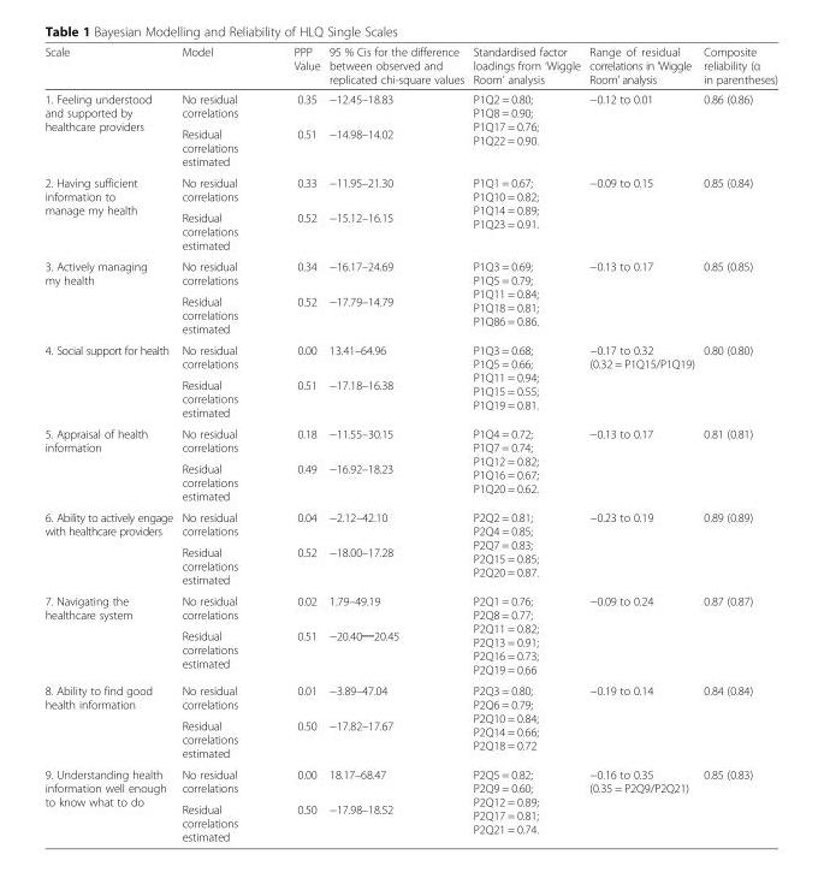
<table><thead><tr><td>Scale</td><td>Model</td><td>PPP Value</td><td>95 % Cis for the difference between observed and replicated chi-square values</td><td>Standardised factor loadings from ‘Wiggle Room’ analysis</td><td>Range of residual correlations in ‘Wiggle Room’ analysis</td><td>Composite reliability (α in parentheses)</td></tr></thead><tbody><tr><td rowspan="2">1. Feeling understood and supported by healthcare providers</td><td>No residual correlations</td><td>0.35</td><td>−12.45–18.83</td><td rowspan="2">P1Q2 = 0.80; P1Q8 = 0.90; P1Q17 = 0.76; P1Q22 = 0.90.</td><td rowspan="2">−0.12 to 0.01</td><td rowspan="2">0.86 (0.86)</td></tr><tr><td>Residual correlations estimated</td><td>0.51</td><td>−14.98–14.02</td></tr><tr><td rowspan="2">2. Having sufficient information to manage my health</td><td>No residual correlations</td><td>0.33</td><td>−11.95–21.30</td><td rowspan="2">P1Q1 = 0.67; P1Q10 = 0.82; P1Q14 = 0.89; P1Q23 = 0.91.</td><td rowspan="2">−0.09 to 0.15</td><td rowspan="2">0.85 (0.84)</td></tr><tr><td>Residual correlations estimated</td><td>0.52</td><td>−15.12–16.15</td></tr><tr><td rowspan="2">3. Actively managing my health</td><td>No residual correlations</td><td>0.34</td><td>−16.17–24.69</td><td rowspan="2">P1Q3 = 0.69; P1Q5 = 0.79; P1Q11 = 0.84; P1Q18 = 0.81; P1Q86 = 0.86.</td><td rowspan="2">−0.13 to 0.17</td><td rowspan="2">0.85 (0.85)</td></tr><tr><td>Residual correlations estimated</td><td>0.52</td><td>−17.79–14.79</td></tr><tr><td rowspan="2">4. Social support for health</td><td>No residual correlations</td><td>0.00</td><td>13.41–64.96</td><td rowspan="2">P1Q3 = 0.68; P1Q5 = 0.66; P1Q11 = 0.94; P1Q15 = 0.55; P1Q19 = 0.81.</td><td rowspan="2">−0.17 to 0.32 (0.32 = P1Q15/P1Q19)</td><td rowspan="2">0.80 (0.80)</td></tr><tr><td>Residual correlations estimated</td><td>0.51</td><td>−17.18–16.38</td></tr><tr><td rowspan="2">5. Appraisal of health information</td><td>No residual correlations</td><td>0.18</td><td>−11.55–30.15</td><td rowspan="2">P1Q4 = 0.72; P1Q7 = 0.74; P1Q12 = 0.82; P1Q16 = 0.67; P1Q20 = 0.62.</td><td rowspan="2">−0.13 to 0.17</td><td rowspan="2">0.81 (0.81)</td></tr><tr><td>Residual correlations estimated</td><td>0.49</td><td>−16.92–18.23</td></tr><tr><td rowspan="2">6. Ability to actively engage with healthcare providers</td><td>No residual correlations</td><td>0.04</td><td>−2.12–42.10</td><td rowspan="2">P2Q2 = 0.81; P2Q4 = 0.85; P2Q7 = 0.83; P2Q15 = 0.85; P2Q20 = 0.87.</td><td rowspan="2">−0.23 to 0.19</td><td rowspan="2">0.89 (0.89)</td></tr><tr><td>Residual correlations estimated</td><td>0.52</td><td>−18.00–17.28</td></tr><tr><td rowspan="2">7. Navigating the healthcare system</td><td>No residual correlations</td><td>0.02</td><td>1.79–49.19</td><td rowspan="2">P2Q1 = 0.76; P2Q8 = 0.77; P2Q11 = 0.82; P2Q13 = 0.91; P2Q16 = 0.73; P2Q19 = 0.66</td><td rowspan="2">−0.09 to 0.24</td><td rowspan="2">0.87 (0.87)</td></tr><tr><td>Residual correlations estimated</td><td>0.51</td><td>−20.40─20.45</td></tr><tr><td rowspan="2">8. Ability to find good health information</td><td>No residual correlations</td><td>0.01</td><td>−3.89–47.04</td><td rowspan="2">P2Q3 = 0.80; P2Q6 = 0.79; P2Q10 = 0.84; P2Q14 = 0.66; P2Q18 = 0.72</td><td rowspan="2">−0.19 to 0.14</td><td rowspan="2">0.84 (0.84)</td></tr><tr><td>Residual correlations estimated</td><td>0.50</td><td>−17.82–17.67</td></tr><tr><td rowspan="2">9. Understanding health information well enough to know what to do</td><td>No residual correlations</td><td>0.00</td><td>18.17–68.47</td><td rowspan="2">P2Q5 = 0.82; P2Q9 = 0.60; P2Q12 = 0.89; P2Q17 = 0.81; P2Q21 = 0.74.</td><td rowspan="2">−0.16 to 0.35 (0.35 = P2Q9/P2Q21)</td><td rowspan="2">0.85 (0.83)</td></tr><tr><td>Residual correlations estimated</td><td>0.50</td><td>−17.98–18.52</td></tr></tbody></table>